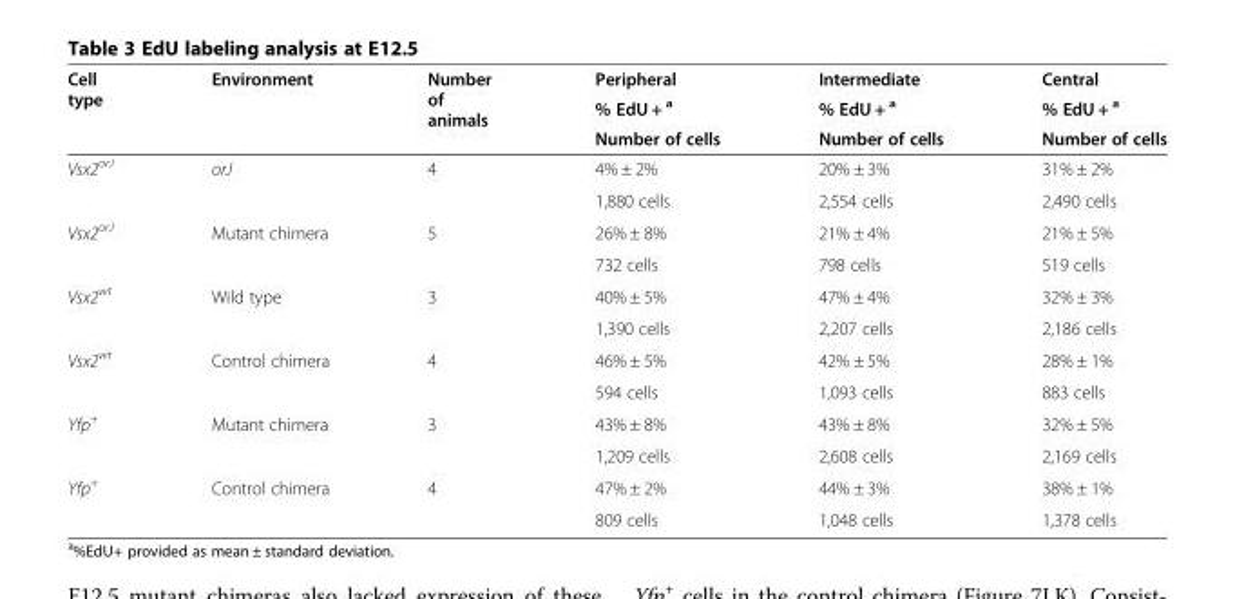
<table><thead><tr><td rowspan="3">Cell type</td><td rowspan="3">Environment</td><td rowspan="3">Number of animals</td><td rowspan="3">Peripheral % EdU + <sup>a</sup> Number of cells</td><td rowspan="3">Intermediate % EdU + <sup>a</sup> Number of cells</td><td rowspan="3">Central % EdU + <sup>a</sup> Number of cells</td></tr><tr></tr><tr></tr></thead><tbody><tr><td rowspan="2">Vsx2<sup>orJ</sup></td><td rowspan="2">orJ</td><td rowspan="2">4</td><td>4% ± 2%</td><td>20% ± 3%</td><td>31% ± 2%</td></tr><tr><td>1,880 cells</td><td>2,554 cells</td><td>2,490 cells</td></tr><tr><td rowspan="2">Vsx2<sup>orJ</sup></td><td>Mutant chimera</td><td>5</td><td>26% ± 8%</td><td>21% ± 4%</td><td>21% ± 5%</td></tr><tr><td></td><td></td><td>732 cells</td><td>798 cells</td><td>519 cells</td></tr><tr><td rowspan="2">Vsx2<sup>wt</sup></td><td rowspan="2">Wild type</td><td rowspan="2">3</td><td>40% ± 5%</td><td>47% ± 4%</td><td>32% ± 3%</td></tr><tr><td>1,390 cells</td><td>2,207 cells</td><td>2,186 cells</td></tr><tr><td rowspan="2">Vsx2<sup>wt</sup></td><td rowspan="2">Control chimera</td><td rowspan="2">4</td><td>46% ± 5%</td><td>42% ± 5%</td><td>28% ± 1%</td></tr><tr><td>594 cells</td><td>1,093 cells</td><td>883 cells</td></tr><tr><td rowspan="2">Yfp<sup>+</sup></td><td rowspan="2">Mutant chimera</td><td rowspan="2">3</td><td>43% ± 8%</td><td>43% ± 8%</td><td>32% ± 5%</td></tr><tr><td>1,209 cells</td><td>2,608 cells</td><td>2,169 cells</td></tr><tr><td rowspan="2">Yfp<sup>+</sup></td><td rowspan="2">Control chimera</td><td rowspan="2">4</td><td>47% ± 2%</td><td>44% ± 3%</td><td>38% ± 1%</td></tr><tr><td>809 cells</td><td>1,048 cells</td><td>1,378 cells</td></tr></tbody></table>